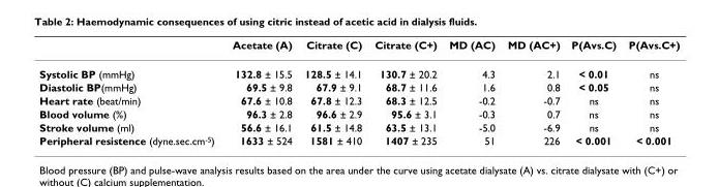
<table><thead><tr><td></td><td>Acetate (A)</td><td>Citrate (C)</td><td>Citrate (C+)</td><td>MD (AC)</td><td>MD (AC+)</td><td>P(Avs.C)</td><td>P(Avs.C+)</td></tr></thead><tbody><tr><td>Systolic BP (mmHg)</td><td>132.8 ± 15.5</td><td>128.5 ± 14.1</td><td>130.7 ± 20.2</td><td>4.3</td><td>2.1</td><td>&lt; 0.01</td><td>ns</td></tr><tr><td>Diastolic BP(mmHg)</td><td>69.5 ± 9.8</td><td>67.9 ± 9.1</td><td>68.7 ± 11.6</td><td>1.6</td><td>0.8</td><td>&lt; 0.05</td><td>ns</td></tr><tr><td>Heart rate (beat/min)</td><td>67.6 ± 10.8</td><td>67.8 ± 12.3</td><td>68.3 ± 12.5</td><td>-0.2</td><td>-0.7</td><td>ns</td><td>ns</td></tr><tr><td>Blood volume (%)</td><td>96.3 ± 2.8</td><td>96.6 ± 2.9</td><td>95.6 ± 3.1</td><td>-0.3</td><td>0.7</td><td>ns</td><td>ns</td></tr><tr><td>Stroke volume (ml)</td><td>56.6 ± 16.1</td><td>61.5 ± 14.8</td><td>63.5 ± 13.1</td><td>-5.0</td><td>-6.9</td><td>ns</td><td>ns</td></tr><tr><td>Peripheral resistence (dyne.sec.cm<sup>-5</sup>)</td><td>1633 ± 524</td><td>1581 ± 410</td><td>1407 ± 235</td><td>51</td><td>226</td><td>&lt; 0.001</td><td>&lt; 0.001</td></tr></tbody></table>